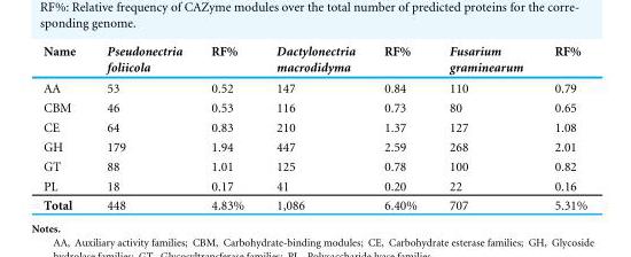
<table><thead><tr><td>Name</td><td>Pseudonectria foliicola</td><td>RF%</td><td>Dactylonectria macrodidyma</td><td>RF%</td><td>Fusarium graminearum</td><td>RF%</td></tr></thead><tbody><tr><td>AA</td><td>53</td><td>0.52</td><td>147</td><td>0.84</td><td>110</td><td>0.79</td></tr><tr><td>CBM</td><td>46</td><td>0.53</td><td>116</td><td>0.73</td><td>80</td><td>0.65</td></tr><tr><td>CE</td><td>64</td><td>0.83</td><td>210</td><td>1.37</td><td>127</td><td>1.08</td></tr><tr><td>GH</td><td>179</td><td>1.94</td><td>447</td><td>2.59</td><td>268</td><td>2.01</td></tr><tr><td>GT</td><td>88</td><td>1.01</td><td>125</td><td>0.78</td><td>100</td><td>0.82</td></tr><tr><td>PL</td><td>18</td><td>0.17</td><td>41</td><td>0.20</td><td>22</td><td>0.16</td></tr><tr><td>Total</td><td>448</td><td>4.83%</td><td>1,086</td><td>6.40%</td><td>707</td><td>5.31%</td></tr></tbody></table>